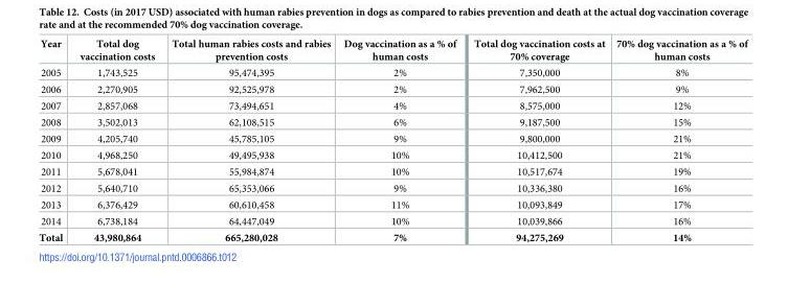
<table><thead><tr><td>Year</td><td>Total dog vaccination costs</td><td>Total human rabies costs and rabies prevention costs</td><td>Dog vaccination as a % of human costs</td><td>Total dog vaccination costs at 70% coverage</td><td>70% dog vaccination as a % of human costs</td></tr></thead><tbody><tr><td>2005</td><td>1,743,525</td><td>95,474,395</td><td>2%</td><td>7,350,000</td><td>8%</td></tr><tr><td>2006</td><td>2,270,905</td><td>92,525,978</td><td>2%</td><td>7,962,500</td><td>9%</td></tr><tr><td>2007</td><td>2,857,068</td><td>73,494,651</td><td>4%</td><td>8,575,000</td><td>12%</td></tr><tr><td>2008</td><td>3,502,013</td><td>62,108,515</td><td>6%</td><td>9,187,500</td><td>15%</td></tr><tr><td>2009</td><td>4,205,740</td><td>45,785,105</td><td>9%</td><td>9,800,000</td><td>21%</td></tr><tr><td>2010</td><td>4,968,250</td><td>49,495,938</td><td>10%</td><td>10,412,500</td><td>21%</td></tr><tr><td>2011</td><td>5,678,041</td><td>55,984,874</td><td>10%</td><td>10,517,674</td><td>19%</td></tr><tr><td>2012</td><td>5,640,710</td><td>65,353,066</td><td>9%</td><td>10,336,380</td><td>16%</td></tr><tr><td>2013</td><td>6,376,429</td><td>60,610,458</td><td>11%</td><td>10,093,849</td><td>17%</td></tr><tr><td>2014</td><td>6,738,184</td><td>64,447,049</td><td>10%</td><td>10,039,866</td><td>16%</td></tr><tr><td>Total</td><td>43,980,864</td><td>665,280,028</td><td>7%</td><td>94,275,269</td><td>14%</td></tr></tbody></table>